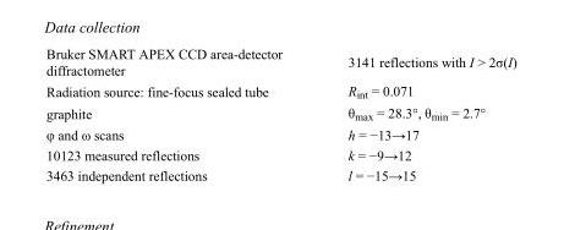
<table><tbody><tr><td>Bruker SMART APEX CCD area-detector diffractometer</td><td>3141 reflections with I &gt; 2σ(I)</td></tr><tr><td>Radiation source: fine-focus sealed tube</td><td>R<sub>int</sub> = 0.071</td></tr><tr><td>graphite</td><td>θ<sub>max</sub> = 28.3°, θ<sub>min</sub> = 2.7°</td></tr><tr><td>φ and ω scans</td><td>h = −13→17</td></tr><tr><td>10123 measured reflections</td><td>k = −9→12</td></tr><tr><td>3463 independent reflections</td><td>l = −15→15</td></tr></tbody></table>